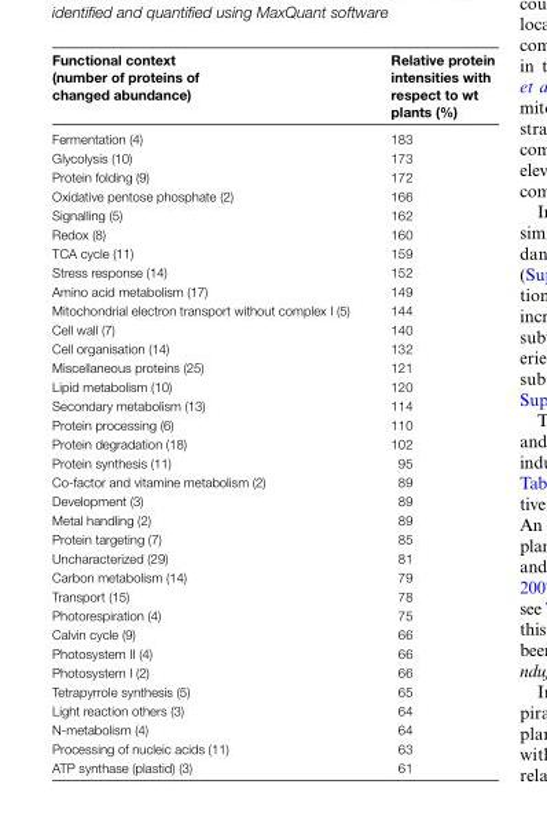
<table><thead><tr><td>Functional context (number of proteins of changed abundance)</td><td>Relative protein intensities with respect to wt plants (%)</td></tr></thead><tbody><tr><td>Fermentation (4)</td><td>183</td></tr><tr><td>Glycolysis (10)</td><td>173</td></tr><tr><td>Protein folding (9)</td><td>172</td></tr><tr><td>Oxidative pentose phosphate (2)</td><td>166</td></tr><tr><td>Signalling (5)</td><td>162</td></tr><tr><td>Redox (8)</td><td>160</td></tr><tr><td>TCA cycle (11)</td><td>159</td></tr><tr><td>Stress response (14)</td><td>152</td></tr><tr><td>Amino acid metabolism (17)</td><td>149</td></tr><tr><td>Mitochondrial electron transport without complex I (5)</td><td>144</td></tr><tr><td>Cell wall (7)</td><td>140</td></tr><tr><td>Cell organisation (14)</td><td>132</td></tr><tr><td>Miscellaneous proteins (25)</td><td>121</td></tr><tr><td>Lipid metabolism (10)</td><td>120</td></tr><tr><td>Secondary metabolism (13)</td><td>114</td></tr><tr><td>Protein processing (6)</td><td>110</td></tr><tr><td>Protein degradation (18)</td><td>102</td></tr><tr><td>Protein synthesis (11)</td><td>95</td></tr><tr><td>Co-factor and vitamine metabolism (2)</td><td>89</td></tr><tr><td>Development (3)</td><td>89</td></tr><tr><td>Metal handling (2)</td><td>89</td></tr><tr><td>Protein targeting (7)</td><td>85</td></tr><tr><td>Uncharacterized (29)</td><td>81</td></tr><tr><td>Carbon metabolism (14)</td><td>79</td></tr><tr><td>Transport (15)</td><td>78</td></tr><tr><td>Photorespiration (4)</td><td>75</td></tr><tr><td>Calvin cycle (9)</td><td>66</td></tr><tr><td>Photosystem II (4)</td><td>66</td></tr><tr><td>Photosystem I (2)</td><td>66</td></tr><tr><td>Tetrapyrrole synthesis (5)</td><td>65</td></tr><tr><td>Light reaction others (3)</td><td>64</td></tr><tr><td>N-metabolism (4)</td><td>64</td></tr><tr><td>Processing of nucleic acids (11)</td><td>63</td></tr><tr><td>ATP synthase (plastid) (3)</td><td>61</td></tr></tbody></table>